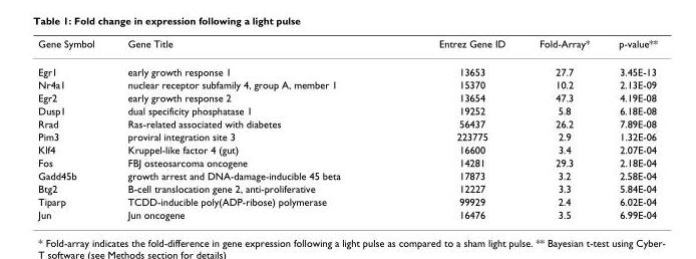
<table><thead><tr><td>Gene Symbol</td><td>Gene Title</td><td>Entrez Gene ID</td><td>Fold-Array*</td><td>p-value**</td></tr></thead><tbody><tr><td>Egr1</td><td>early growth response 1</td><td>13653</td><td>27.7</td><td>3.45E-13</td></tr><tr><td>Nr4a1</td><td>nuclear receptor subfamily 4, group A, member 1</td><td>15370</td><td>10.2</td><td>2.13E-09</td></tr><tr><td>Egr2</td><td>early growth response 2</td><td>13654</td><td>47.3</td><td>4.19E-08</td></tr><tr><td>Dusp1</td><td>dual specificity phosphatase 1</td><td>19252</td><td>5.8</td><td>6.18E-08</td></tr><tr><td>Rrad</td><td>Ras-related associated with diabetes</td><td>56437</td><td>26.2</td><td>7.89E-08</td></tr><tr><td>Pim3</td><td>proviral integration site 3</td><td>223775</td><td>2.9</td><td>1.32E-06</td></tr><tr><td>Klf4</td><td>Kruppel-like factor 4 (gut)</td><td>16600</td><td>3.4</td><td>2.07E-04</td></tr><tr><td>Fos</td><td>FBJ osteosarcoma oncogene</td><td>14281</td><td>29.3</td><td>2.18E-04</td></tr><tr><td>Gadd45b</td><td>growth arrest and DNA-damage-inducible 45 beta</td><td>17873</td><td>3.2</td><td>2.58E-04</td></tr><tr><td>Btg2</td><td>B-cell translocation gene 2, anti-proliferative</td><td>12227</td><td>3.3</td><td>5.84E-04</td></tr><tr><td>Tiparp</td><td>TCDD-inducible poly(ADP-ribose) polymerase</td><td>99929</td><td>2.4</td><td>6.02E-04</td></tr><tr><td>Jun</td><td>Jun oncogene</td><td>16476</td><td>3.5</td><td>6.99E-04</td></tr></tbody></table>